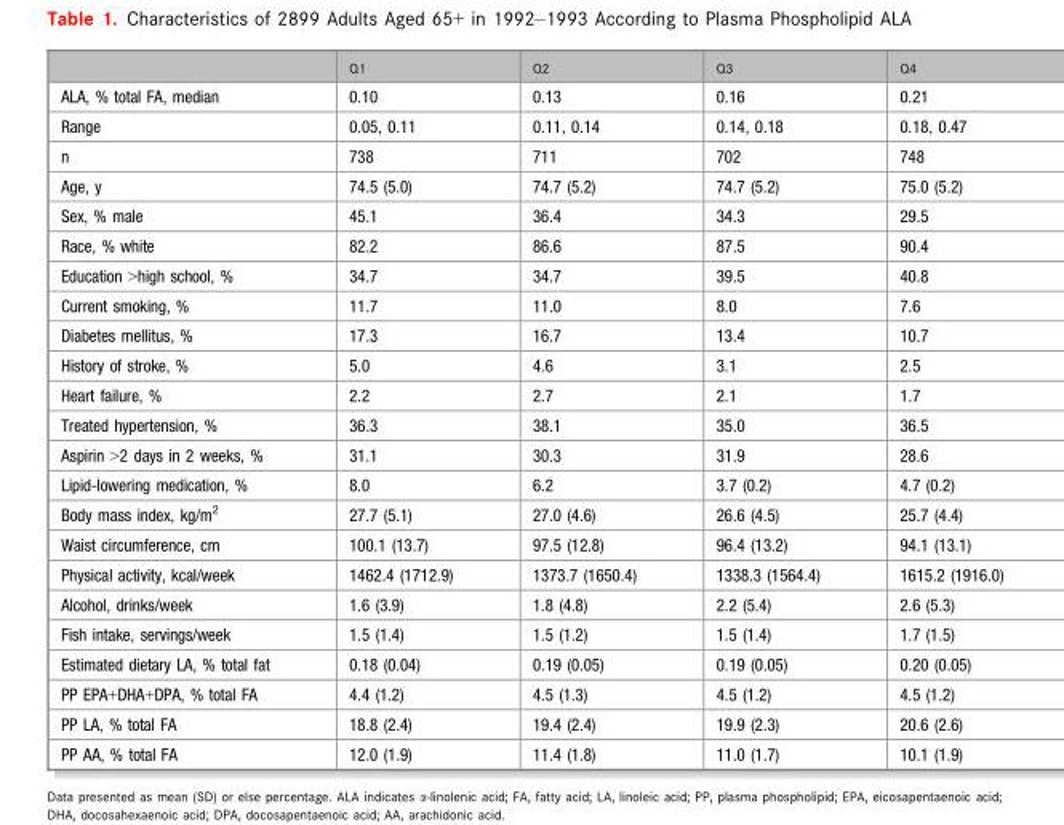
<table><thead><tr><td></td><td>Q1</td><td>Q2</td><td>Q3</td><td>Q4</td></tr></thead><tbody><tr><td>ALA, % total FA, median</td><td>0.10</td><td>0.13</td><td>0.16</td><td>0.21</td></tr><tr><td>Range</td><td>0.05, 0.11</td><td>0.11, 0.14</td><td>0.14, 0.18</td><td>0.18, 0.47</td></tr><tr><td>n</td><td>738</td><td>711</td><td>702</td><td>748</td></tr><tr><td>Age, y</td><td>74.5 (5.0)</td><td>74.7 (5.2)</td><td>74.7 (5.2)</td><td>75.0 (5.2)</td></tr><tr><td>Sex, % male</td><td>45.1</td><td>36.4</td><td>34.3</td><td>29.5</td></tr><tr><td>Race, % white</td><td>82.2</td><td>86.6</td><td>87.5</td><td>90.4</td></tr><tr><td>Education &gt;high school, %</td><td>34.7</td><td>34.7</td><td>39.5</td><td>40.8</td></tr><tr><td>Current smoking, %</td><td>11.7</td><td>11.0</td><td>8.0</td><td>7.6</td></tr><tr><td>Diabetes mellitus, %</td><td>17.3</td><td>16.7</td><td>13.4</td><td>10.7</td></tr><tr><td>History of stroke, %</td><td>5.0</td><td>4.6</td><td>3.1</td><td>2.5</td></tr><tr><td>Heart failure, %</td><td>2.2</td><td>2.7</td><td>2.1</td><td>1.7</td></tr><tr><td>Treated hypertension, %</td><td>36.3</td><td>38.1</td><td>35.0</td><td>36.5</td></tr><tr><td>Aspirin &gt;2 days in 2 weeks, %</td><td>31.1</td><td>30.3</td><td>31.9</td><td>28.6</td></tr><tr><td>Lipid-lowering medication, %</td><td>8.0</td><td>6.2</td><td>3.7 (0.2)</td><td>4.7 (0.2)</td></tr><tr><td>Body mass index, kg/m<sup>2</sup></td><td>27.7 (5.1)</td><td>27.0 (4.6)</td><td>26.6 (4.5)</td><td>25.7 (4.4)</td></tr><tr><td>Waist circumference, cm</td><td>100.1 (13.7)</td><td>97.5 (12.8)</td><td>96.4 (13.2)</td><td>94.1 (13.1)</td></tr><tr><td>Physical activity, kcal/week</td><td>1462.4 (1712.9)</td><td>1373.7 (1650.4)</td><td>1338.3 (1564.4)</td><td>1615.2 (1916.0)</td></tr><tr><td>Alcohol, drinks/week</td><td>1.6 (3.9)</td><td>1.8 (4.8)</td><td>2.2 (5.4)</td><td>2.6 (5.3)</td></tr><tr><td>Fish intake, servings/week</td><td>1.5 (1.4)</td><td>1.5 (1.2)</td><td>1.5 (1.4)</td><td>1.7 (1.5)</td></tr><tr><td>Estimated dietary LA, % total fat</td><td>0.18 (0.04)</td><td>0.19 (0.05)</td><td>0.19 (0.05)</td><td>0.20 (0.05)</td></tr><tr><td>PP EPA+DHA+DPA, % total FA</td><td>4.4 (1.2)</td><td>4.5 (1.3)</td><td>4.5 (1.2)</td><td>4.5 (1.2)</td></tr><tr><td>PP LA, % total FA</td><td>18.8 (2.4)</td><td>19.4 (2.4)</td><td>19.9 (2.3)</td><td>20.6 (2.6)</td></tr><tr><td>PP AA, % total FA</td><td>12.0 (1.9)</td><td>11.4 (1.8)</td><td>11.0 (1.7)</td><td>10.1 (1.9)</td></tr></tbody></table>